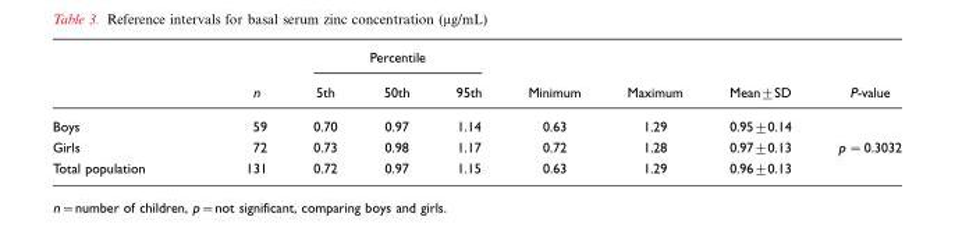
<table><thead><tr><td rowspan="2"></td><td rowspan="2">n</td><td colspan="3">Percentile</td><td rowspan="2">Minimum</td><td rowspan="2">Maximum</td><td rowspan="2">Mean±SD</td><td rowspan="2">P-value</td></tr><tr><td>5th</td><td>50th</td><td>95th</td></tr></thead><tbody><tr><td>Boys</td><td>59</td><td>0.70</td><td>0.97</td><td>1.14</td><td>0.63</td><td>1.29</td><td>0.95±0.14</td><td></td></tr><tr><td>Girls</td><td>72</td><td>0.73</td><td>0.98</td><td>1.17</td><td>0.72</td><td>1.28</td><td>0.97±0.13</td><td>p =0.3032</td></tr><tr><td>Total population</td><td>131</td><td>0.72</td><td>0.97</td><td>1.15</td><td>0.63</td><td>1.29</td><td>0.96±0.13</td><td></td></tr></tbody></table>